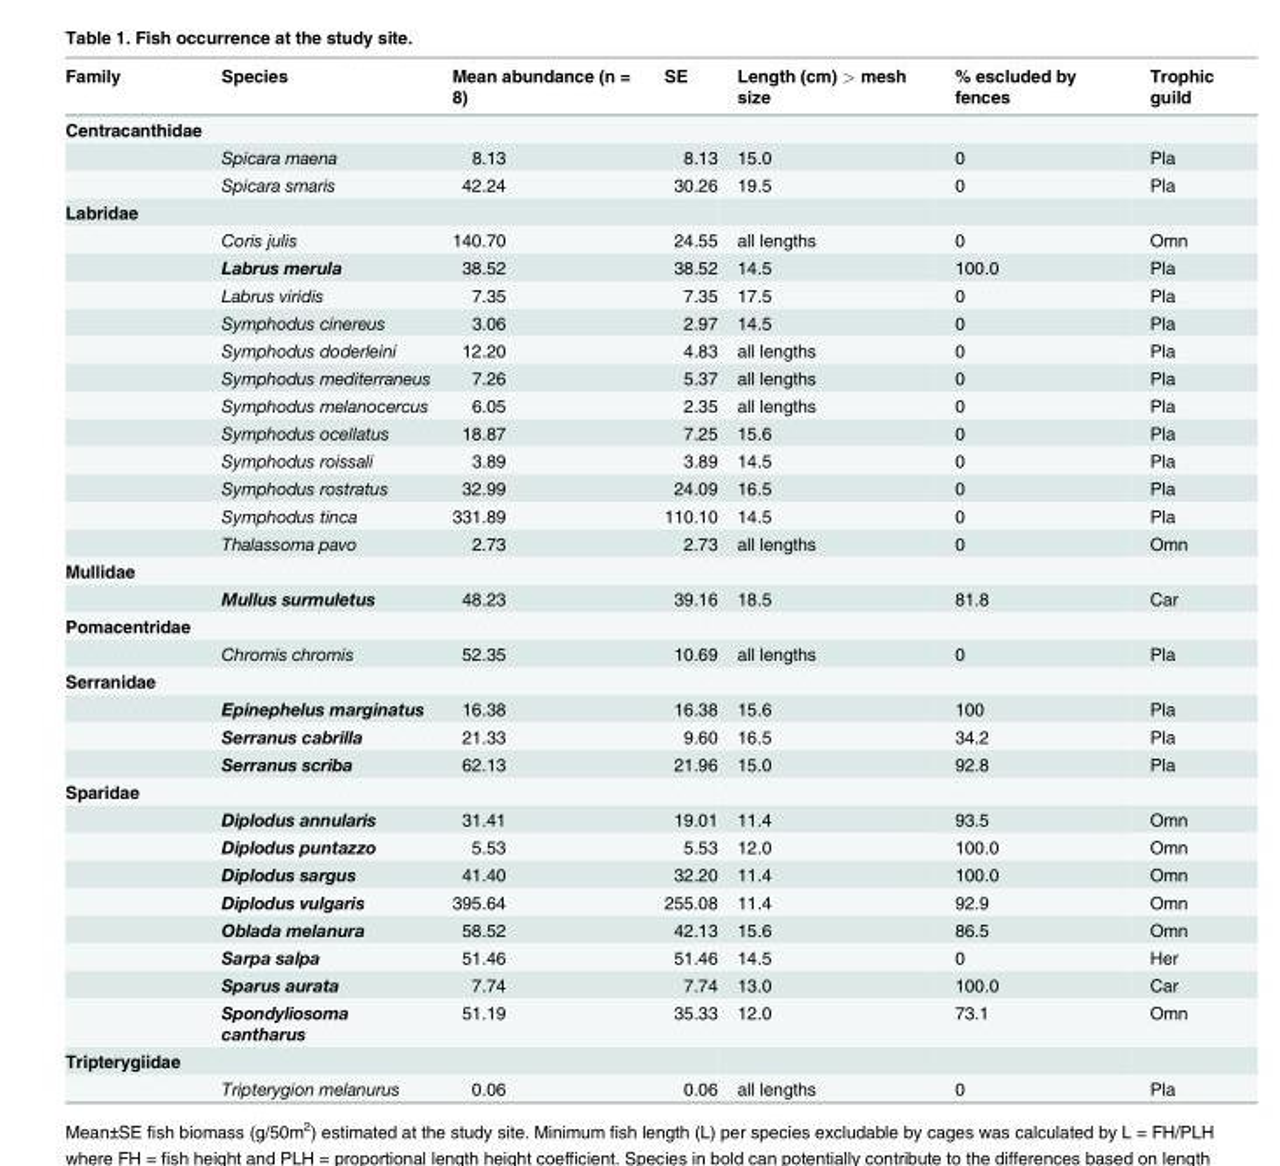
<table><thead><tr><td>Family</td><td>Species</td><td>Mean abundance (n = 8)</td><td>SE</td><td>Length (cm) &gt; mesh size</td><td>% escluded by fences</td><td>Trophic guild</td></tr></thead><tbody><tr><td colspan="7">Centracanthidae</td></tr><tr><td></td><td>Spicara maena</td><td>8.13</td><td>8.13</td><td>15.0</td><td>0</td><td>Pla</td></tr><tr><td></td><td>Spicara smaris</td><td>42.24</td><td>30.26</td><td>19.5</td><td>0</td><td>Pla</td></tr><tr><td colspan="7">Labridae</td></tr><tr><td></td><td>Coris julis</td><td>140.70</td><td>24.55</td><td>all lengths</td><td>0</td><td>Omn</td></tr><tr><td></td><td>Labrus merula</td><td>38.52</td><td>38.52</td><td>14.5</td><td>100.0</td><td>Pla</td></tr><tr><td></td><td>Labrus viridis</td><td>7.35</td><td>7.35</td><td>17.5</td><td>0</td><td>Pla</td></tr><tr><td></td><td>Symphodus cinereus</td><td>3.06</td><td>2.97</td><td>14.5</td><td>0</td><td>Pla</td></tr><tr><td></td><td>Symphodus doderleini</td><td>12.20</td><td>4.83</td><td>all lengths</td><td>0</td><td>Pla</td></tr><tr><td></td><td>Symphodus mediterraneus</td><td>7.26</td><td>5.37</td><td>all lengths</td><td>0</td><td>Pla</td></tr><tr><td></td><td>Symphodus melanocercus</td><td>6.05</td><td>2.35</td><td>all lengths</td><td>0</td><td>Pla</td></tr><tr><td></td><td>Symphodus ocellatus</td><td>18.87</td><td>7.25</td><td>15.6</td><td>0</td><td>Pla</td></tr><tr><td></td><td>Symphodus roissali</td><td>3.89</td><td>3.89</td><td>14.5</td><td>0</td><td>Pla</td></tr><tr><td></td><td>Symphodus rostratus</td><td>32.99</td><td>24.09</td><td>16.5</td><td>0</td><td>Pla</td></tr><tr><td></td><td>Symphodus tinca</td><td>331.89</td><td>110.10</td><td>14.5</td><td>0</td><td>Pla</td></tr><tr><td></td><td>Thalassoma pavo</td><td>2.73</td><td>2.73</td><td>all lengths</td><td>0</td><td>Omn</td></tr><tr><td colspan="7">Mullidae</td></tr><tr><td></td><td>Mullus surmuletus</td><td>48.23</td><td>39.16</td><td>18.5</td><td>81.8</td><td>Car</td></tr><tr><td colspan="7">Pomacentridae</td></tr><tr><td></td><td>Chromis chromis</td><td>52.35</td><td>10.69</td><td>all lengths</td><td>0</td><td>Pla</td></tr><tr><td colspan="7">Serranidae</td></tr><tr><td></td><td>Epinephelus marginatus</td><td>16.38</td><td>16.38</td><td>15.6</td><td>100</td><td>Pla</td></tr><tr><td></td><td>Serranus cabrilla</td><td>21.33</td><td>9.60</td><td>16.5</td><td>34.2</td><td>Pla</td></tr><tr><td></td><td>Serranus scriba</td><td>62.13</td><td>21.96</td><td>15.0</td><td>92.8</td><td>Pla</td></tr><tr><td colspan="7">Sparidae</td></tr><tr><td></td><td>Diplodus annularis</td><td>31.41</td><td>19.01</td><td>11.4</td><td>93.5</td><td>Omn</td></tr><tr><td></td><td>Diplodus puntazzo</td><td>5.53</td><td>5.53</td><td>12.0</td><td>100.0</td><td>Omn</td></tr><tr><td></td><td>Diplodus sargus</td><td>41.40</td><td>32.20</td><td>11.4</td><td>100.0</td><td>Omn</td></tr><tr><td></td><td>Diplodus vulgaris</td><td>395.64</td><td>255.08</td><td>11.4</td><td>92.9</td><td>Omn</td></tr><tr><td></td><td>Oblada melanura</td><td>58.52</td><td>42.13</td><td>15.6</td><td>86.5</td><td>Omn</td></tr><tr><td></td><td>Sarpa salpa</td><td>51.46</td><td>51.46</td><td>14.5</td><td>0</td><td>Her</td></tr><tr><td></td><td>Sparus aurata</td><td>7.74</td><td>7.74</td><td>13.0</td><td>100.0</td><td>Car</td></tr><tr><td></td><td>Spondyliosoma cantharus</td><td>51.19</td><td>35.33</td><td>12.0</td><td>73.1</td><td>Omn</td></tr><tr><td colspan="7">Tripterygiidae</td></tr><tr><td></td><td>Tripterygion melanurus</td><td>0.06</td><td>0.06</td><td>all lengths</td><td>0</td><td>Pla</td></tr></tbody></table>